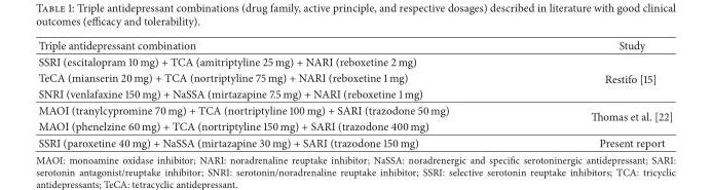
<table><thead><tr><td>Triple antidepressant combination</td><td>Study</td></tr></thead><tbody><tr><td>SSRI (escitalopram 10 mg) + TCA (amitriptyline 25 mg) + NARI (reboxetine 2 mg)</td><td rowspan="3">Restifo [15]</td></tr><tr><td>TeCA (mianserin 20 mg) + TCA (nortriptyline 75 mg) + NARI (reboxetine 1 mg)</td></tr><tr><td>SNRI (venlafaxine 150 mg) + NaSSA (mirtazapine 7.5 mg) + NARI (reboxetine 1 mg)</td></tr><tr><td>MAOI (tranylcypromine 70 mg) + TCA (nortriptyline 100 mg) + SARI (trazodone 50 mg)</td><td rowspan="2">Thomas et al. [22]</td></tr><tr><td>MAOI (phenelzine 60 mg) + TCA (nortriptyline 150 mg) + SARI (trazodone 400 mg)</td></tr><tr><td>SSRI (paroxetine 40 mg) + NaSSA (mirtazapine 30 mg) + SARI (trazodone 150 mg)</td><td>Present report</td></tr></tbody></table>